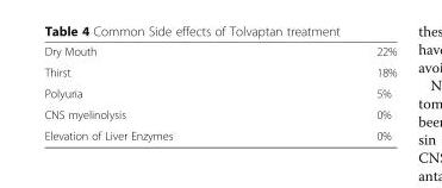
<table><tbody><tr><td>Dry Mouth</td><td>22%</td></tr><tr><td>Thirst</td><td>18%</td></tr><tr><td>Polyuria</td><td>5%</td></tr><tr><td>CNS myelinolysis</td><td>0%</td></tr><tr><td>Elevation of Liver Enzymes</td><td>0%</td></tr></tbody></table>